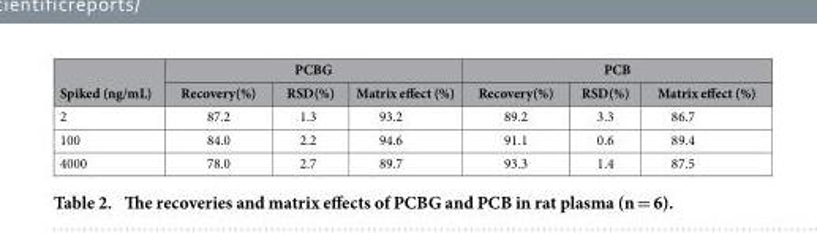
<table><thead><tr><td rowspan="2">Spiked (ng/mL)</td><td colspan="3">PCBG</td><td colspan="3">PCB</td></tr><tr><td>Recovery(%)</td><td>RSD(%)</td><td>Matrix effect (%)</td><td>Recovery(%)</td><td>RSD(%)</td><td>Matrix effect (%)</td></tr></thead><tbody><tr><td>2</td><td>87.2</td><td>1.3</td><td>93.2</td><td>89.2</td><td>3.3</td><td>86.7</td></tr><tr><td>100</td><td>84.0</td><td>2.2</td><td>94.6</td><td>91.1</td><td>0.6</td><td>89.4</td></tr><tr><td>4000</td><td>78.0</td><td>2.7</td><td>89.7</td><td>93.3</td><td>1.4</td><td>87.5</td></tr></tbody></table>